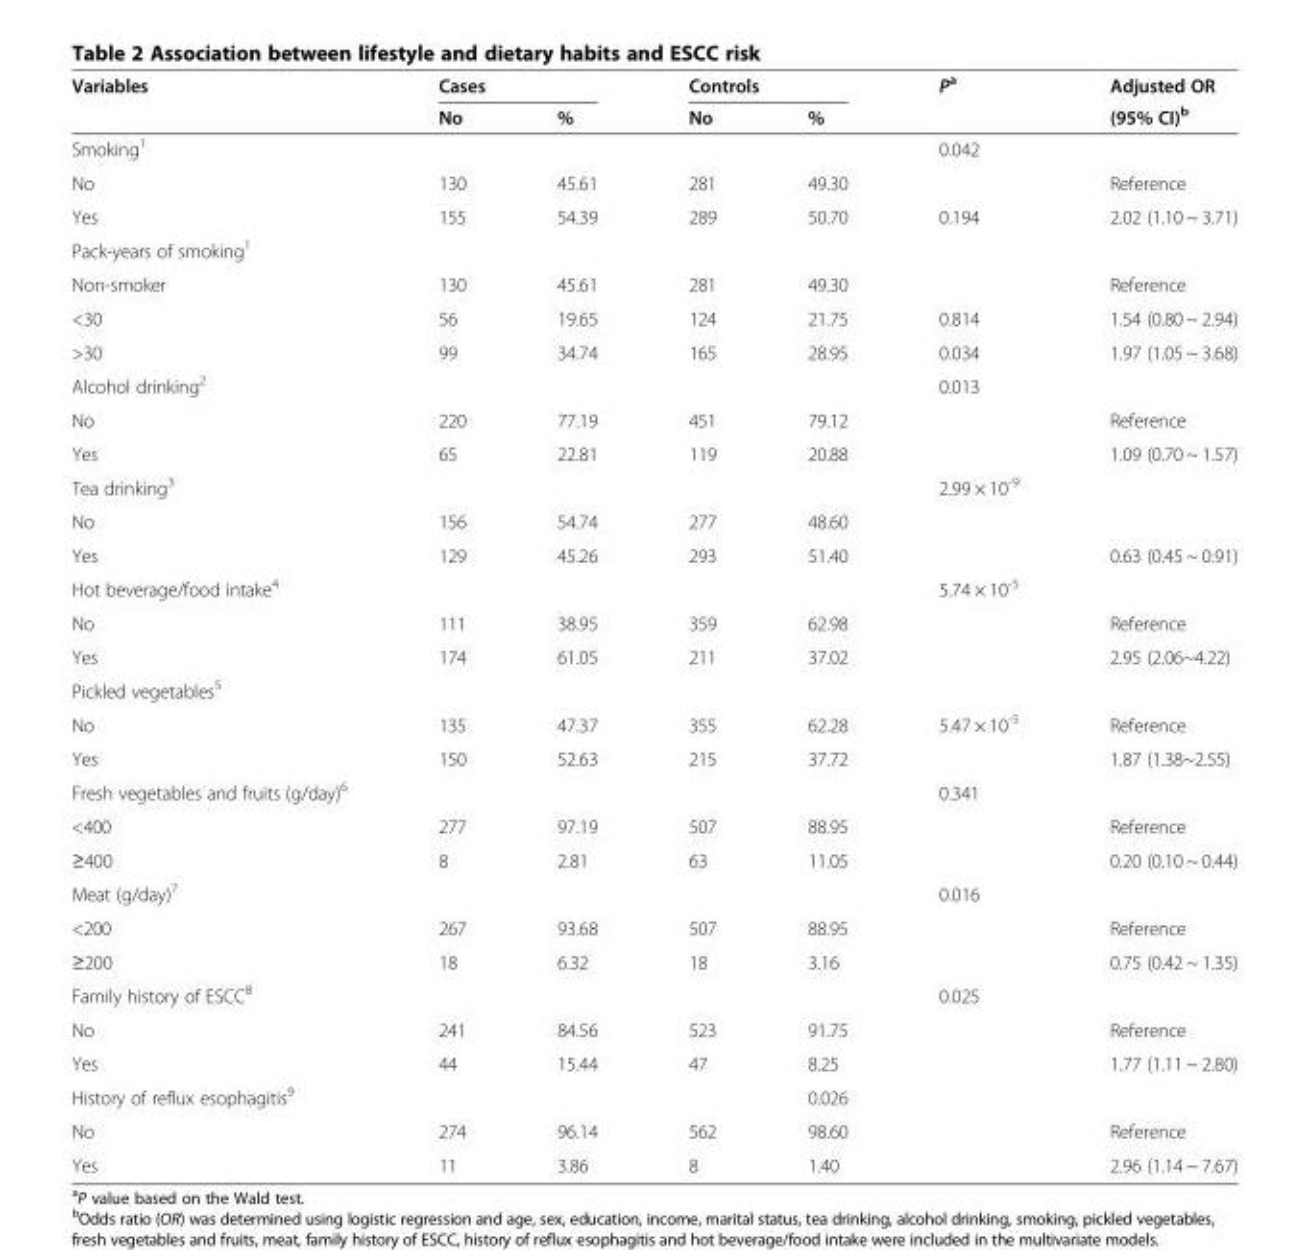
<table><thead><tr><td rowspan="2">Variables</td><td colspan="2">Cases</td><td colspan="2">Controls</td><td rowspan="2">P<sup>a</sup></td><td rowspan="2">Adjusted OR (95% CI)<sup>b</sup></td></tr><tr><td>No</td><td>%</td><td>No</td><td>%</td></tr></thead><tbody><tr><td>Smoking<sup>1</sup></td><td></td><td></td><td></td><td></td><td>0.042</td><td></td></tr><tr><td>No</td><td>130</td><td>45.61</td><td>281</td><td>49.30</td><td></td><td>Reference</td></tr><tr><td>Yes</td><td>155</td><td>54.39</td><td>289</td><td>50.70</td><td>0.194</td><td>2.02 (1.10 ~ 3.71)</td></tr><tr><td colspan="7">Pack-years of smoking<sup>1</sup></td></tr><tr><td>Non-smoker</td><td>130</td><td>45.61</td><td>281</td><td>49.30</td><td></td><td>Reference</td></tr><tr><td>&lt;30</td><td>56</td><td>19.65</td><td>124</td><td>21.75</td><td>0.814</td><td>1.54 (0.80 ~ 2.94)</td></tr><tr><td>&gt;30</td><td>99</td><td>34.74</td><td>165</td><td>28.95</td><td>0.034</td><td>1.97 (1.05 ~ 3.68)</td></tr><tr><td>Alcohol drinking<sup>2</sup></td><td></td><td></td><td></td><td></td><td>0.013</td><td></td></tr><tr><td>No</td><td>220</td><td>77.19</td><td>451</td><td>79.12</td><td></td><td>Reference</td></tr><tr><td>Yes</td><td>65</td><td>22.81</td><td>119</td><td>20.88</td><td></td><td>1.09 (0.70 ~ 1.57)</td></tr><tr><td>Tea drinking<sup>3</sup></td><td></td><td></td><td></td><td></td><td>2.99 × 10<sup>-9</sup></td><td></td></tr><tr><td>No</td><td>156</td><td>54.74</td><td>277</td><td>48.60</td><td></td><td></td></tr><tr><td>Yes</td><td>129</td><td>45.26</td><td>293</td><td>51.40</td><td></td><td>0.63 (0.45 ~ 0.91)</td></tr><tr><td>Hot beverage/food intake<sup>4</sup></td><td></td><td></td><td></td><td></td><td>5.74 × 10<sup>-5</sup></td><td></td></tr><tr><td>No</td><td>111</td><td>38.95</td><td>359</td><td>62.98</td><td></td><td>Reference</td></tr><tr><td>Yes</td><td>174</td><td>61.05</td><td>211</td><td>37.02</td><td></td><td>2.95 (2.06~4.22)</td></tr><tr><td colspan="7">Pickled vegetables<sup>5</sup></td></tr><tr><td>No</td><td>135</td><td>47.37</td><td>355</td><td>62.28</td><td>5.47 × 10<sup>-5</sup></td><td>Reference</td></tr><tr><td>Yes</td><td>150</td><td>52.63</td><td>215</td><td>37.72</td><td></td><td>1.87 (1.38~2.55)</td></tr><tr><td>Fresh vegetables and fruits (g/day)<sup>6</sup></td><td></td><td></td><td></td><td></td><td>0.341</td><td></td></tr><tr><td>&lt;400</td><td>277</td><td>97.19</td><td>507</td><td>88.95</td><td></td><td>Reference</td></tr><tr><td>≥400</td><td>8</td><td>2.81</td><td>63</td><td>11.05</td><td></td><td>0.20 (0.10 ~ 0.44)</td></tr><tr><td>Meat (g/day)<sup>7</sup></td><td></td><td></td><td></td><td></td><td>0.016</td><td></td></tr><tr><td>&lt;200</td><td>267</td><td>93.68</td><td>507</td><td>88.95</td><td></td><td>Reference</td></tr><tr><td>≥200</td><td>18</td><td>6.32</td><td>18</td><td>3.16</td><td></td><td>0.75 (0.42 ~ 1.35)</td></tr><tr><td>Family history of ESCC<sup>8</sup></td><td></td><td></td><td></td><td></td><td>0.025</td><td></td></tr><tr><td>No</td><td>241</td><td>84.56</td><td>523</td><td>91.75</td><td></td><td>Reference</td></tr><tr><td>Yes</td><td>44</td><td>15.44</td><td>47</td><td>8.25</td><td></td><td>1.77 (1.11 ~ 2.80)</td></tr><tr><td>History of reflux esophagitis<sup>9</sup></td><td></td><td></td><td></td><td>0.026</td><td></td><td></td></tr><tr><td>No</td><td>274</td><td>96.14</td><td>562</td><td>98.60</td><td></td><td>Reference</td></tr><tr><td>Yes</td><td>11</td><td>3.86</td><td>8</td><td>1.40</td><td></td><td>2.96 (1.14 ~ 7.67)</td></tr></tbody></table>